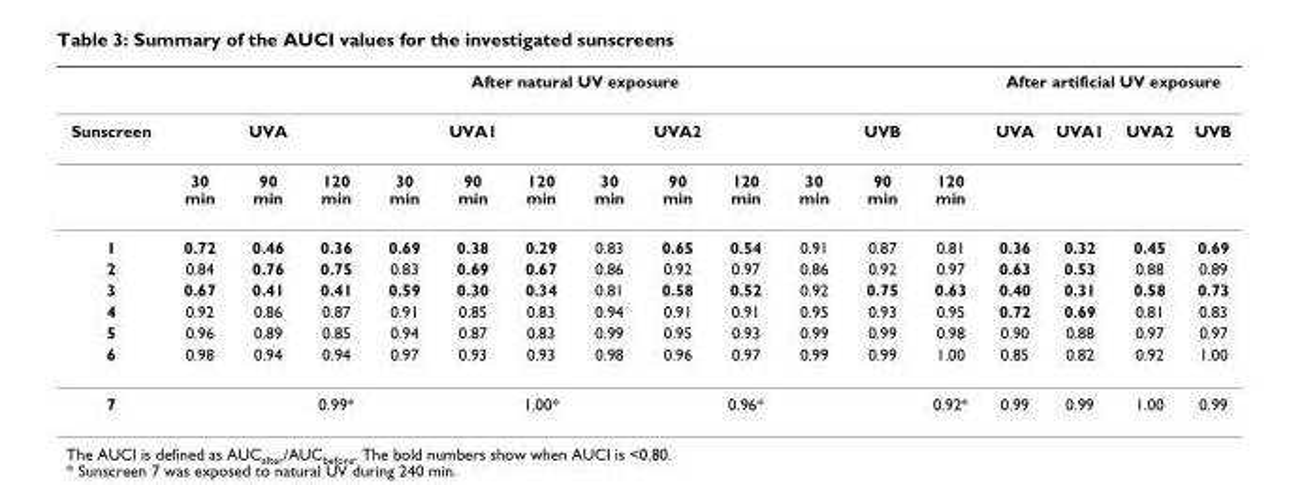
<table><thead><tr><td rowspan="3">Sunscreen</td><td colspan="12">After natural UV exposure</td><td colspan="4">After artificial UV exposure</td></tr><tr><td colspan="3">UVA</td><td colspan="3">UVA1</td><td colspan="3">UVA2</td><td colspan="3">UVB</td><td rowspan="2">UVA</td><td rowspan="2">UVA1</td><td rowspan="2">UVA2</td><td rowspan="2">UVB</td></tr><tr><td>30 min</td><td>90 min</td><td>120 min</td><td>30 min</td><td>90 min</td><td>120 min</td><td>30 min</td><td>90 min</td><td>120 min</td><td>30 min</td><td>90 min</td><td>120 min</td></tr></thead><tbody><tr><td>1</td><td>0.72</td><td>0.46</td><td>0.36</td><td>0.69</td><td>0.38</td><td>0.29</td><td>0.83</td><td>0.65</td><td>0.54</td><td>0.91</td><td>0.87</td><td>0.81</td><td>0.36</td><td>0.32</td><td>0.45</td><td>0.69</td></tr><tr><td>2</td><td>0.84</td><td>0.76</td><td>0.75</td><td>0.83</td><td>0.69</td><td>0.67</td><td>0.86</td><td>0.92</td><td>0.97</td><td>0.86</td><td>0.92</td><td>0.97</td><td>0.63</td><td>0.53</td><td>0.88</td><td>0.89</td></tr><tr><td>3</td><td>0.67</td><td>0.41</td><td>0.41</td><td>0.59</td><td>0.30</td><td>0.34</td><td>0.81</td><td>0.58</td><td>0.52</td><td>0.92</td><td>0.75</td><td>0.63</td><td>0.40</td><td>0.31</td><td>0.58</td><td>0.73</td></tr><tr><td>4</td><td>0.92</td><td>0.86</td><td>0.87</td><td>0.91</td><td>0.85</td><td>0.83</td><td>0.94</td><td>0.91</td><td>0.91</td><td>0.95</td><td>0.93</td><td>0.95</td><td>0.72</td><td>0.69</td><td>0.81</td><td>0.83</td></tr><tr><td>5</td><td>0.96</td><td>0.89</td><td>0.85</td><td>0.94</td><td>0.87</td><td>0.83</td><td>0.99</td><td>0.95</td><td>0.93</td><td>0.99</td><td>0.99</td><td>0.98</td><td>0.90</td><td>0.88</td><td>0.97</td><td>0.97</td></tr><tr><td>6</td><td>0.98</td><td>0.94</td><td>0.94</td><td>0.97</td><td>0.93</td><td>0.93</td><td>0.98</td><td>0.96</td><td>0.97</td><td>0.99</td><td>0.99</td><td>1.00</td><td>0.85</td><td>0.82</td><td>0.92</td><td>1.00</td></tr><tr><td>7</td><td></td><td></td><td>0.99*</td><td></td><td></td><td>1.00*</td><td></td><td></td><td>0.96*</td><td></td><td></td><td>0.92*</td><td>0.99</td><td>0.99</td><td>1.00</td><td>0.99</td></tr></tbody></table>